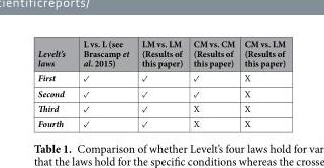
<table><thead><tr><td>Levelt’s laws</td><td>L vs. L (see Brascamp et al. 2015)</td><td>LM vs. LM (Results of this paper)</td><td>CM vs. CM (Results of this paper)</td><td>CM vs. LM (Results of this paper)</td></tr></thead><tbody><tr><td>First</td><td>✓</td><td>✓</td><td>✓</td><td>X</td></tr><tr><td>Second</td><td>✓</td><td>✓</td><td>✓</td><td>X</td></tr><tr><td>Third</td><td>✓</td><td>✓</td><td>X</td><td>X</td></tr><tr><td>Fourth</td><td>✓</td><td>✓</td><td>X</td><td>X</td></tr></tbody></table>